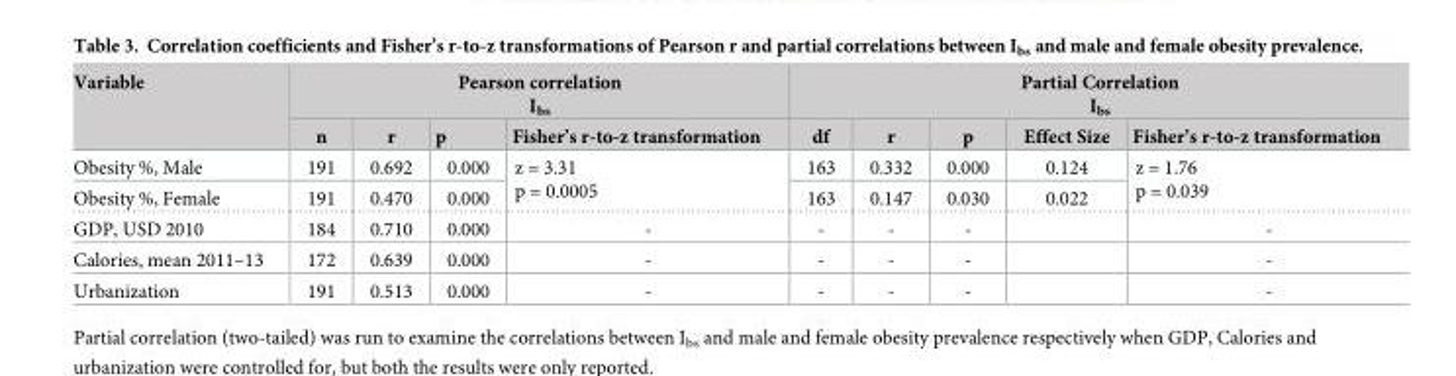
<table><thead><tr><td rowspan="2">Variable</td><td colspan="4">Pearson correlation I<sub>bs</sub></td><td colspan="5">Partial Correlation I<sub>bs</sub></td></tr><tr><td>n</td><td>r</td><td>p</td><td>Fisher’s r-to-z transformation</td><td>df</td><td>r</td><td>p</td><td>Effect Size</td><td>Fisher’s r-to-z transformation</td></tr></thead><tbody><tr><td>Obesity %, Male</td><td>191</td><td>0.692</td><td>0.000</td><td rowspan="2">z = 3.31 p = 0.0005</td><td>163</td><td>0.332</td><td>0.000</td><td>0.124</td><td rowspan="2">z = 1.76 p = 0.039</td></tr><tr><td>Obesity %, Female</td><td>191</td><td>0.470</td><td>0.000</td><td>163</td><td>0.147</td><td>0.030</td><td>0.022</td></tr><tr><td>GDP, USD 2010</td><td>184</td><td>0.710</td><td>0.000</td><td>-</td><td>-</td><td>-</td><td>-</td><td></td><td>-</td></tr><tr><td>Calories, mean 2011–13</td><td>172</td><td>0.639</td><td>0.000</td><td>-</td><td>-</td><td>-</td><td>-</td><td></td><td>-</td></tr><tr><td>Urbanization</td><td>191</td><td>0.513</td><td>0.000</td><td>-</td><td>-</td><td>-</td><td>-</td><td></td><td>-</td></tr></tbody></table>